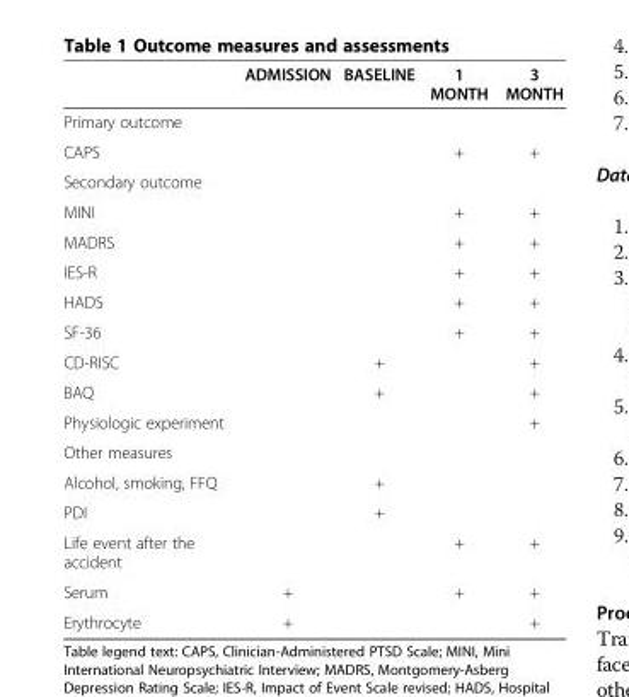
<table><thead><tr><td></td><td>ADMISSION</td><td>BASELINE</td><td>1 MONTH</td><td>3 MONTH</td></tr></thead><tbody><tr><td colspan="5">Primary outcome</td></tr><tr><td>CAPS</td><td></td><td></td><td>+</td><td>+</td></tr><tr><td colspan="5">Secondary outcome</td></tr><tr><td>MINI</td><td></td><td></td><td>+</td><td>+</td></tr><tr><td>MADRS</td><td></td><td></td><td>+</td><td>+</td></tr><tr><td>IES-R</td><td></td><td></td><td>+</td><td>+</td></tr><tr><td>HADS</td><td></td><td></td><td>+</td><td>+</td></tr><tr><td>SF-36</td><td></td><td></td><td>+</td><td>+</td></tr><tr><td>CD-RISC</td><td></td><td>+</td><td></td><td>+</td></tr><tr><td>BAQ</td><td></td><td>+</td><td></td><td>+</td></tr><tr><td>Physiologic experiment</td><td></td><td></td><td></td><td>+</td></tr><tr><td colspan="5">Other measures</td></tr><tr><td>Alcohol, smoking, FFQ</td><td></td><td>+</td><td></td><td></td></tr><tr><td>PDI</td><td></td><td>+</td><td></td><td></td></tr><tr><td>Life event after the accident</td><td></td><td></td><td>+</td><td>+</td></tr><tr><td>Serum</td><td>+</td><td></td><td>+</td><td>+</td></tr><tr><td>Erythrocyte</td><td>+</td><td></td><td></td><td>+</td></tr></tbody></table>